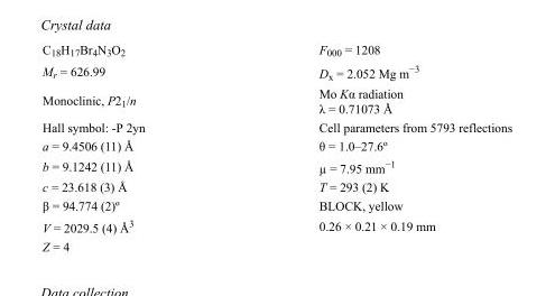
<table><tbody><tr><td>C<sub>18</sub>H<sub>17</sub>Br<sub>4</sub>N<sub>3</sub>O<sub>2</sub></td><td>F<sub>000</sub> = 1208</td></tr><tr><td>M<sub>r</sub> = 626.99</td><td>D<sub>x</sub> = 2.052 Mg m<sup>−3</sup></td></tr><tr><td>Monoclinic, P2<sub>1</sub>/n</td><td>Mo Kα radiation λ = 0.71073 Å</td></tr><tr><td>Hall symbol: -P 2yn</td><td>Cell parameters from 5793 reflections</td></tr><tr><td>a = 9.4506 (11) Å</td><td>θ = 1.0–27.6º</td></tr><tr><td>b = 9.1242 (11) Å</td><td>µ = 7.95 mm<sup>−1</sup></td></tr><tr><td>c = 23.618 (3) Å</td><td>T = 293 (2) K</td></tr><tr><td>β = 94.774 (2)º</td><td>BLOCK, yellow</td></tr><tr><td>V = 2029.5 (4) Å<sup>3</sup></td><td>0.26 × 0.21 × 0.19 mm</td></tr><tr><td>Z = 4</td><td></td></tr></tbody></table>